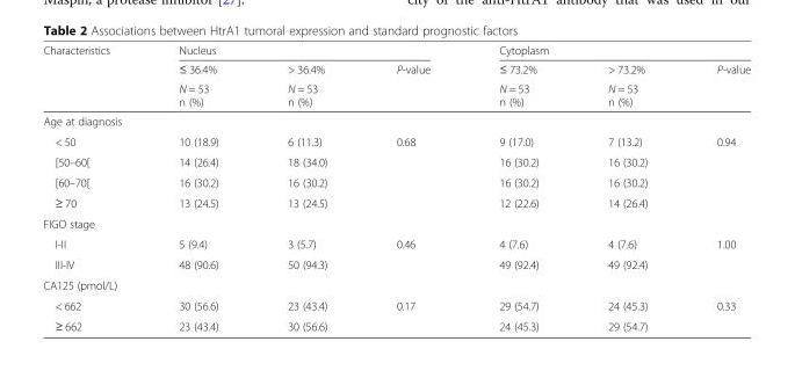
<table><thead><tr><td rowspan="3">Characteristics</td><td colspan="3">Nucleus</td><td colspan="3">Cytoplasm</td></tr><tr><td rowspan="2">≤ 36.4% N = 53 n (%)</td><td rowspan="2">&gt; 36.4% N = 53 n (%)</td><td rowspan="2">P-value</td><td rowspan="2">≤ 73.2% N = 53 n (%)</td><td rowspan="2">&gt; 73.2% N = 53 n (%)</td><td rowspan="2">P-value</td></tr><tr></tr></thead><tbody><tr><td colspan="7">Age at diagnosis</td></tr><tr><td>&lt; 50</td><td>10 (18.9)</td><td>6 (11.3)</td><td>0.68</td><td>9 (17.0)</td><td>7 (13.2)</td><td>0.94</td></tr><tr><td>[50–60[</td><td>14 (26.4)</td><td>18 (34.0)</td><td></td><td>16 (30.2)</td><td>16 (30.2)</td><td></td></tr><tr><td>[60–70[</td><td>16 (30.2)</td><td>16 (30.2)</td><td></td><td>16 (30.2)</td><td>16 (30.2)</td><td></td></tr><tr><td>≥ 70</td><td>13 (24.5)</td><td>13 (24.5)</td><td></td><td>12 (22.6)</td><td>14 (26.4)</td><td></td></tr><tr><td colspan="7">FIGO stage</td></tr><tr><td>I-II</td><td>5 (9.4)</td><td>3 (5.7)</td><td>0.46</td><td>4 (7.6)</td><td>4 (7.6)</td><td>1.00</td></tr><tr><td>III-IV</td><td>48 (90.6)</td><td>50 (94.3)</td><td></td><td>49 (92.4)</td><td>49 (92.4)</td><td></td></tr><tr><td colspan="7">CA125 (pmol/L)</td></tr><tr><td>&lt; 662</td><td>30 (56.6)</td><td>23 (43.4)</td><td>0.17</td><td>29 (54.7)</td><td>24 (45.3)</td><td>0.33</td></tr><tr><td>≥ 662</td><td>23 (43.4)</td><td>30 (56.6)</td><td></td><td>24 (45.3)</td><td>29 (54.7)</td><td></td></tr></tbody></table>